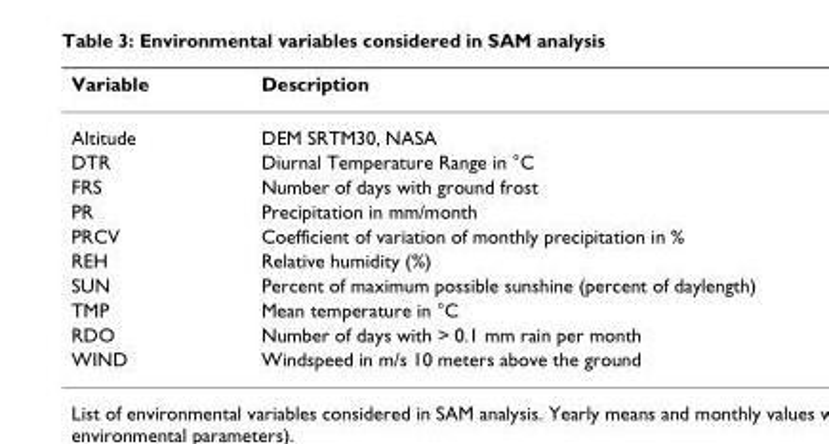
<table><thead><tr><td>Variable</td><td>Description</td></tr></thead><tbody><tr><td>Altitude</td><td>DEM SRTM30, NASA</td></tr><tr><td>DTR</td><td>Diurnal Temperature Range in °C</td></tr><tr><td>FRS</td><td>Number of days with ground frost</td></tr><tr><td>PR</td><td>Precipitation in mm/month</td></tr><tr><td>PRCV</td><td>Coefficient of variation of monthly precipitation in %</td></tr><tr><td>REH</td><td>Relative humidity (%)</td></tr><tr><td>SUN</td><td>Percent of maximum possible sunshine (percent of daylength)</td></tr><tr><td>TMP</td><td>Mean temperature in °C</td></tr><tr><td>RDO</td><td>Number of days with &gt; 0.1 mm rain per month</td></tr><tr><td>WIND</td><td>Windspeed in m/s 10 meters above the ground</td></tr></tbody></table>